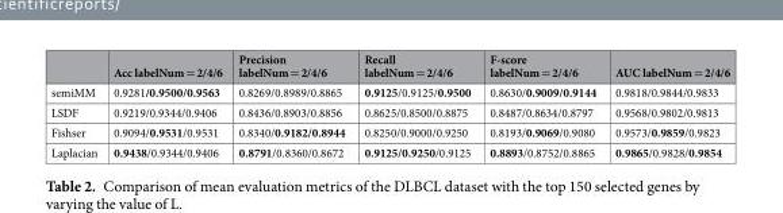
<table><thead><tr><td></td><td>Acc labelNum = 2/4/6</td><td>Precision labelNum = 2/4/6</td><td>Recall labelNum = 2/4/6</td><td>F-score labelNum = 2/4/6</td><td>AUC labelNum = 2/4/6</td></tr></thead><tbody><tr><td>semiMM</td><td>0.9281/0.9500/0.9563</td><td>0.8269/0.8989/0.8865</td><td>0.9125/0.9125/0.9500</td><td>0.8630/0.9009/0.9144</td><td>0.9818/0.9844/0.9833</td></tr><tr><td>LSDF</td><td>0.9219/0.9344/0.9406</td><td>0.8436/0.8903/0.8856</td><td>0.8625/0.8500/0.8875</td><td>0.8487/0.8634/0.8797</td><td>0.9568/0.9802/0.9813</td></tr><tr><td>Fishser</td><td>0.9094/0.9531/0.9531</td><td>0.8340/0.9182/0.8944</td><td>0.8250/0.9000/0.9250</td><td>0.8193/0.9069/0.9080</td><td>0.9573/0.9859/0.9823</td></tr><tr><td>Laplacian</td><td>0.9438/0.9344/0.9406</td><td>0.8791/0.8360/0.8672</td><td>0.9125/0.9250/0.9125</td><td>0.8893/0.8752/0.8865</td><td>0.9865/0.9828/0.9854</td></tr></tbody></table>